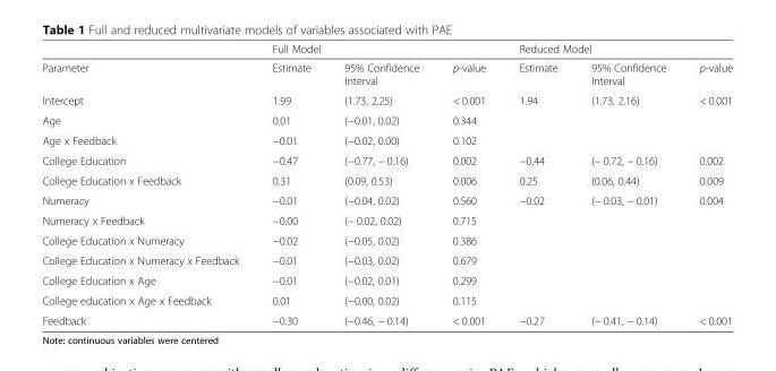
<table><thead><tr><td rowspan="2">Parameter</td><td colspan="3">Full Model</td><td colspan="3">Reduced Model</td></tr><tr><td>Estimate</td><td>95% Confidence Interval</td><td>p-value</td><td>Estimate</td><td>95% Confidence Interval</td><td>p-value</td></tr></thead><tbody><tr><td>Intercept</td><td>1.99</td><td>(1.73, 2.25)</td><td>&lt; 0.001</td><td>1.94</td><td>(1.73, 2.16)</td><td>&lt; 0.001</td></tr><tr><td>Age</td><td>0.01</td><td>(−0.01, 0.02)</td><td>0.344</td><td></td><td></td><td></td></tr><tr><td>Age x Feedback</td><td>−0.01</td><td>(−0.02, 0.00)</td><td>0.102</td><td></td><td></td><td></td></tr><tr><td>College Education</td><td>−0.47</td><td>(−0.77, − 0.16)</td><td>0.002</td><td>−0.44</td><td>(− 0.72, − 0.16)</td><td>0.002</td></tr><tr><td>College Education x Feedback</td><td>0.31</td><td>(0.09, 0.53)</td><td>0.006</td><td>0.25</td><td>(0.06, 0.44)</td><td>0.009</td></tr><tr><td>Numeracy</td><td>−0.01</td><td>(−0.04, 0.02)</td><td>0.560</td><td>−0.02</td><td>(− 0.03, − 0.01)</td><td>0.004</td></tr><tr><td>Numeracy x Feedback</td><td>−0.00</td><td>(− 0.02, 0.02)</td><td>0.715</td><td></td><td></td><td></td></tr><tr><td>College Education x Numeracy</td><td>−0.02</td><td>(−0.05, 0.02)</td><td>0.386</td><td></td><td></td><td></td></tr><tr><td>College Education x Numeracy x Feedback</td><td>−0.01</td><td>(−0.03, 0.02)</td><td>0.679</td><td></td><td></td><td></td></tr><tr><td>College Education x Age</td><td>−0.01</td><td>(−0.02, 0.01)</td><td>0.299</td><td></td><td></td><td></td></tr><tr><td>College education x Age x Feedback</td><td>0.01</td><td>(−0.00, 0.02)</td><td>0.115</td><td></td><td></td><td></td></tr><tr><td>Feedback</td><td>−0.30</td><td>(−0.46, − 0.14)</td><td>&lt; 0.001</td><td>−0.27</td><td>(− 0.41, − 0.14)</td><td>&lt; 0.001</td></tr></tbody></table>